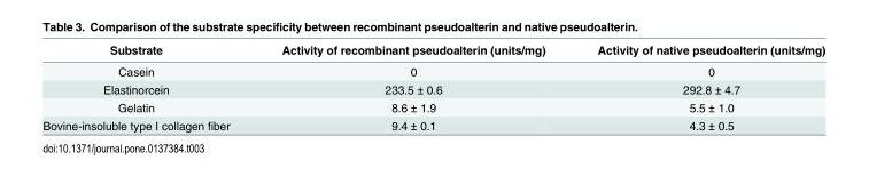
<table><thead><tr><td>Substrate</td><td>Activity of recombinant pseudoalterin (units/mg)</td><td>Activity of native pseudoalterin (units/mg)</td></tr></thead><tbody><tr><td>Casein</td><td>0</td><td>0</td></tr><tr><td>Elastinorcein</td><td>233.5 ± 0.6</td><td>292.8 ± 4.7</td></tr><tr><td>Gelatin</td><td>8.6 ± 1.9</td><td>5.5 ± 1.0</td></tr><tr><td>Bovine-insoluble type I collagen fiber</td><td>9.4 ± 0.1</td><td>4.3 ± 0.5</td></tr></tbody></table>